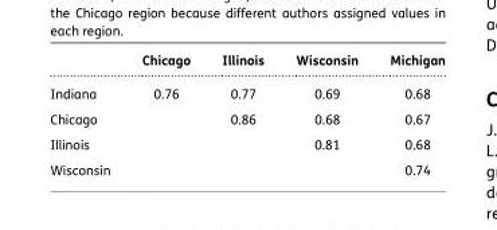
<table><thead><tr><td></td><td>Chicago</td><td>Illinois</td><td>Wisconsin</td><td>Michigan</td></tr></thead><tbody><tr><td>Indiana</td><td>0.76</td><td>0.77</td><td>0.69</td><td>0.68</td></tr><tr><td>Chicago</td><td></td><td>0.86</td><td>0.68</td><td>0.67</td></tr><tr><td>Illinois</td><td></td><td></td><td>0.81</td><td>0.68</td></tr><tr><td>Wisconsin</td><td></td><td></td><td></td><td>0.74</td></tr></tbody></table>